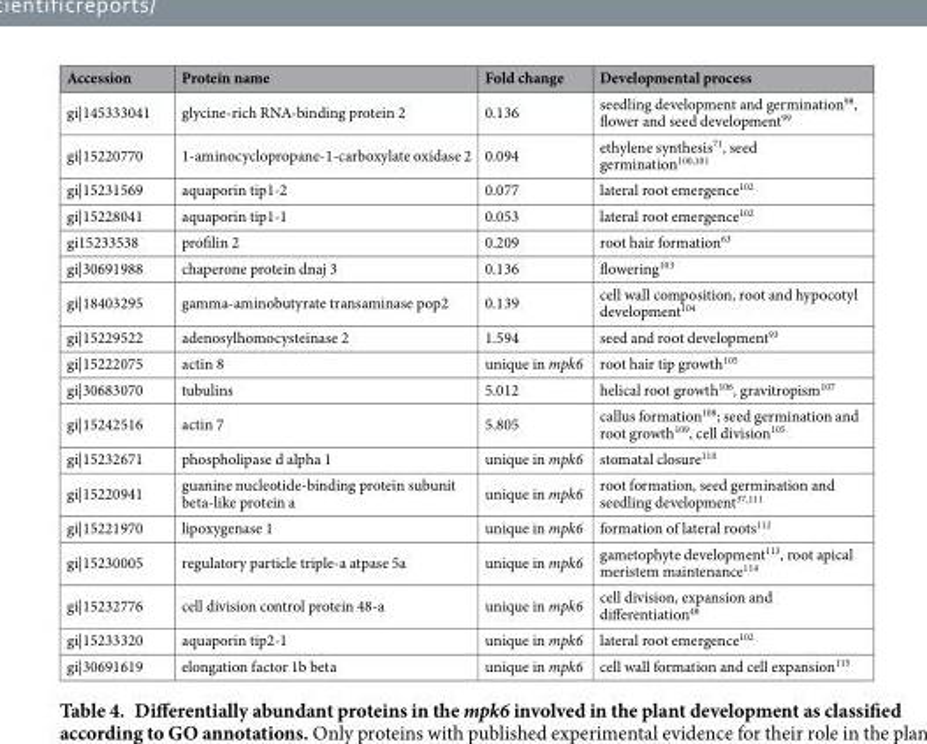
<table><thead><tr><td>Accession</td><td>Protein name</td><td>Fold change</td><td>Developmental process</td></tr></thead><tbody><tr><td>gi|145333041</td><td>glycine-rich RNA-binding protein 2</td><td>0.136</td><td>seedling development and germination<sup>98</sup>, flower and seed development<sup>99</sup></td></tr><tr><td>gi|15220770</td><td>1-aminocyclopropane-1-carboxylate oxidase 2</td><td>0.094</td><td>ethylene synthesis<sup>71</sup>, seed germination<sup>100</sup>,<sup>101</sup></td></tr><tr><td>gi|15231569</td><td>aquaporin tip1-2</td><td>0.077</td><td>lateral root emergence<sup>102</sup></td></tr><tr><td>gi|15228041</td><td>aquaporin tip1-1</td><td>0.053</td><td>lateral root emergence<sup>102</sup></td></tr><tr><td>gi15233538</td><td>profilin 2</td><td>0.209</td><td>root hair formation<sup>63</sup></td></tr><tr><td>gi|30691988</td><td>chaperone protein dnaj 3</td><td>0.136</td><td>flowering<sup>103</sup></td></tr><tr><td>gi|18403295</td><td>gamma-aminobutyrate transaminase pop2</td><td>0.139</td><td>cell wall composition, root and hypocotyl development<sup>104</sup></td></tr><tr><td>gi|15229522</td><td>adenosylhomocysteinase 2</td><td>1.594</td><td>seed and root development<sup>93</sup></td></tr><tr><td>gi|15222075</td><td>actin 8</td><td>unique in mpk6</td><td>root hair tip growth<sup>105</sup></td></tr><tr><td>gi|30683070</td><td>tubulins</td><td>5.012</td><td>helical root growth<sup>106</sup>, gravitropism<sup>107</sup></td></tr><tr><td>gi|15242516</td><td>actin 7</td><td>5.805</td><td>callus formation<sup>108</sup>; seed germination and root growth<sup>109</sup>, cell division<sup>105</sup></td></tr><tr><td>gi|15232671</td><td>phospholipase d alpha 1</td><td>unique in mpk6</td><td>stomatal closure<sup>110</sup></td></tr><tr><td>gi|15220941</td><td>guanine nucleotide-binding protein subunit beta-like protein a</td><td>unique in mpk6</td><td>root formation, seed germination and seedling development<sup>37</sup>,<sup>111</sup></td></tr><tr><td>gi|15221970</td><td>lipoxygenase 1</td><td>unique in mpk6</td><td>formation of lateral roots<sup>112</sup></td></tr><tr><td>gi|15230005</td><td>regulatory particle triple-a atpase 5a</td><td>unique in mpk6</td><td>gametophyte development<sup>113</sup>, root apical meristem maintenance<sup>114</sup></td></tr><tr><td>gi|15232776</td><td>cell division control protein 48-a</td><td>unique in mpk6</td><td>cell division, expansion and differentiation<sup>48</sup></td></tr><tr><td>gi|15233320</td><td>aquaporin tip2-1</td><td>unique in mpk6</td><td>lateral root emergence<sup>102</sup></td></tr><tr><td>gi|30691619</td><td>elongation factor 1b beta</td><td>unique in mpk6</td><td>cell wall formation and cell expansion<sup>115</sup></td></tr></tbody></table>